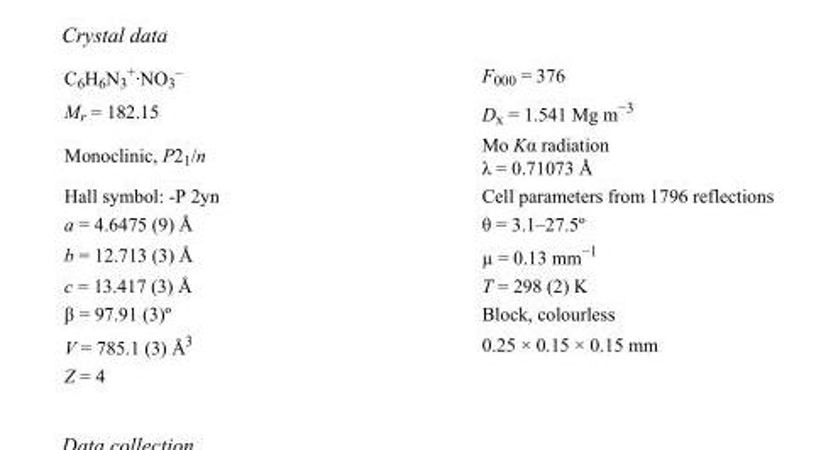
<table><tbody><tr><td>C<sub>6</sub>H<sub>6</sub>N<sub>3</sub> <sup>+</sup>·NO<sub>3</sub> <sup>–</sup></td><td>F000 = 376</td></tr><tr><td>M<sub>r</sub> = 182.15</td><td>D<sub>x</sub> = 1.541 Mg m<sup>−3</sup></td></tr><tr><td>Monoclinic, P2<sub>1</sub>/n</td><td>Mo Kα radiation λ = 0.71073 Å</td></tr><tr><td>Hall symbol: -P 2yn</td><td>Cell parameters from 1796 reflections</td></tr><tr><td>a = 4.6475 (9) Å</td><td>θ = 3.1–27.5º</td></tr><tr><td>b = 12.713 (3) Å</td><td>µ = 0.13 mm<sup>−1</sup></td></tr><tr><td>c = 13.417 (3) Å</td><td>T = 298 (2) K</td></tr><tr><td>β = 97.91 (3)º</td><td>Block, colourless</td></tr><tr><td>V = 785.1 (3) Å<sup>3</sup></td><td>0.25 × 0.15 × 0.15 mm</td></tr><tr><td>Z = 4</td><td></td></tr></tbody></table>